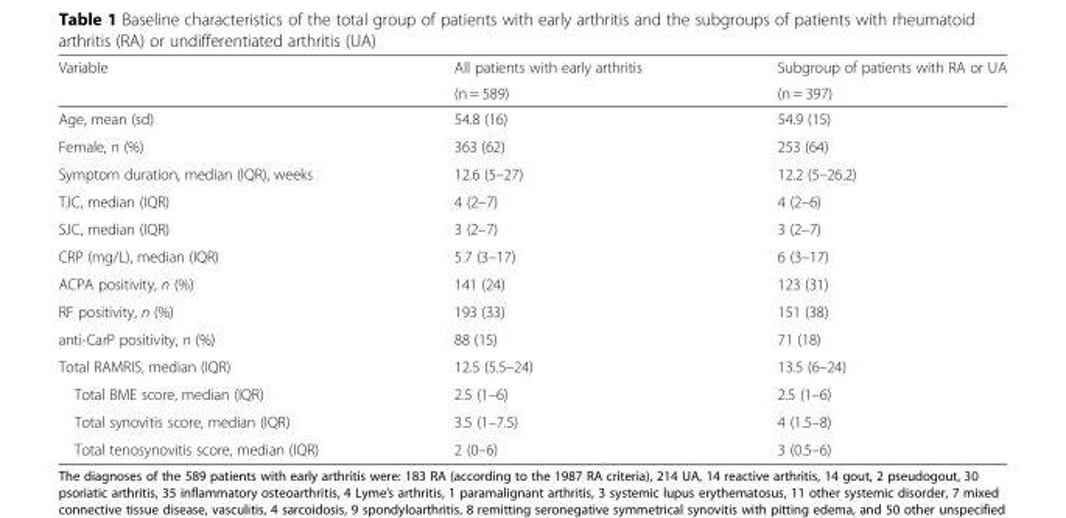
<table><thead><tr><td rowspan="2">Variable</td><td rowspan="2">All patients with early arthritis (n = 589)</td><td rowspan="2">Subgroup of patients with RA or UA (n = 397)</td></tr><tr></tr></thead><tbody><tr><td>Age, mean (sd)</td><td>54.8 (16)</td><td>54.9 (15)</td></tr><tr><td>Female, n (%)</td><td>363 (62)</td><td>253 (64)</td></tr><tr><td>Symptom duration, median (IQR), weeks</td><td>12.6 (5–27)</td><td>12.2 (5–26.2)</td></tr><tr><td>TJC, median (IQR)</td><td>4 (2–7)</td><td>4 (2–6)</td></tr><tr><td>SJC, median (IQR)</td><td>3 (2–7)</td><td>3 (2–7)</td></tr><tr><td>CRP (mg/L), median (IQR)</td><td>5.7 (3–17)</td><td>6 (3–17)</td></tr><tr><td>ACPA positivity, n (%)</td><td>141 (24)</td><td>123 (31)</td></tr><tr><td>RF positivity, n (%)</td><td>193 (33)</td><td>151 (38)</td></tr><tr><td>anti-CarP positivity, n (%)</td><td>88 (15)</td><td>71 (18)</td></tr><tr><td>Total RAMRIS, median (IQR)</td><td>12.5 (5.5–24)</td><td>13.5 (6–24)</td></tr><tr><td>Total BME score, median (IQR)</td><td>2.5 (1–6)</td><td>2.5 (1–6)</td></tr><tr><td>Total synovitis score, median (IQR)</td><td>3.5 (1–7.5)</td><td>4 (1.5–8)</td></tr><tr><td>Total tenosynovitis score, median (IQR)</td><td>2 (0–6)</td><td>3 (0.5–6)</td></tr></tbody></table>